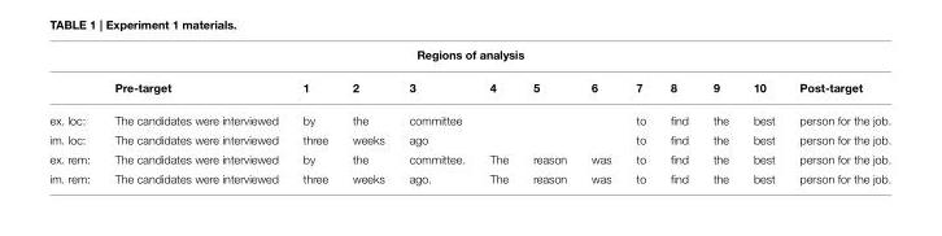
<table><thead><tr><td colspan="13">Regions of analysis</td></tr><tr><td></td><td>Pre-target</td><td>1</td><td>2</td><td>3</td><td>4</td><td>5</td><td>6</td><td>7</td><td>8</td><td>9</td><td>10</td><td>Post-target</td></tr></thead><tbody><tr><td>ex. loc:</td><td>The candidates were interviewed</td><td>by</td><td>the</td><td>committee</td><td></td><td></td><td></td><td>to</td><td>find</td><td>the</td><td>best</td><td>person for the job.</td></tr><tr><td>im. loc:</td><td>The candidates were interviewed</td><td>three</td><td>weeks</td><td>ago</td><td></td><td></td><td></td><td>to</td><td>find</td><td>the</td><td>best</td><td>person for the job.</td></tr><tr><td>ex. rem:</td><td>The candidates were interviewed</td><td>by</td><td>the</td><td>committee.</td><td>The</td><td>reason</td><td>was</td><td>to</td><td>find</td><td>the</td><td>best</td><td>person for the job.</td></tr><tr><td>im. rem:</td><td>The candidates were interviewed</td><td>three</td><td>weeks</td><td>ago.</td><td>The</td><td>reason</td><td>was</td><td>to</td><td>find</td><td>the</td><td>best</td><td>person for the job.</td></tr></tbody></table>